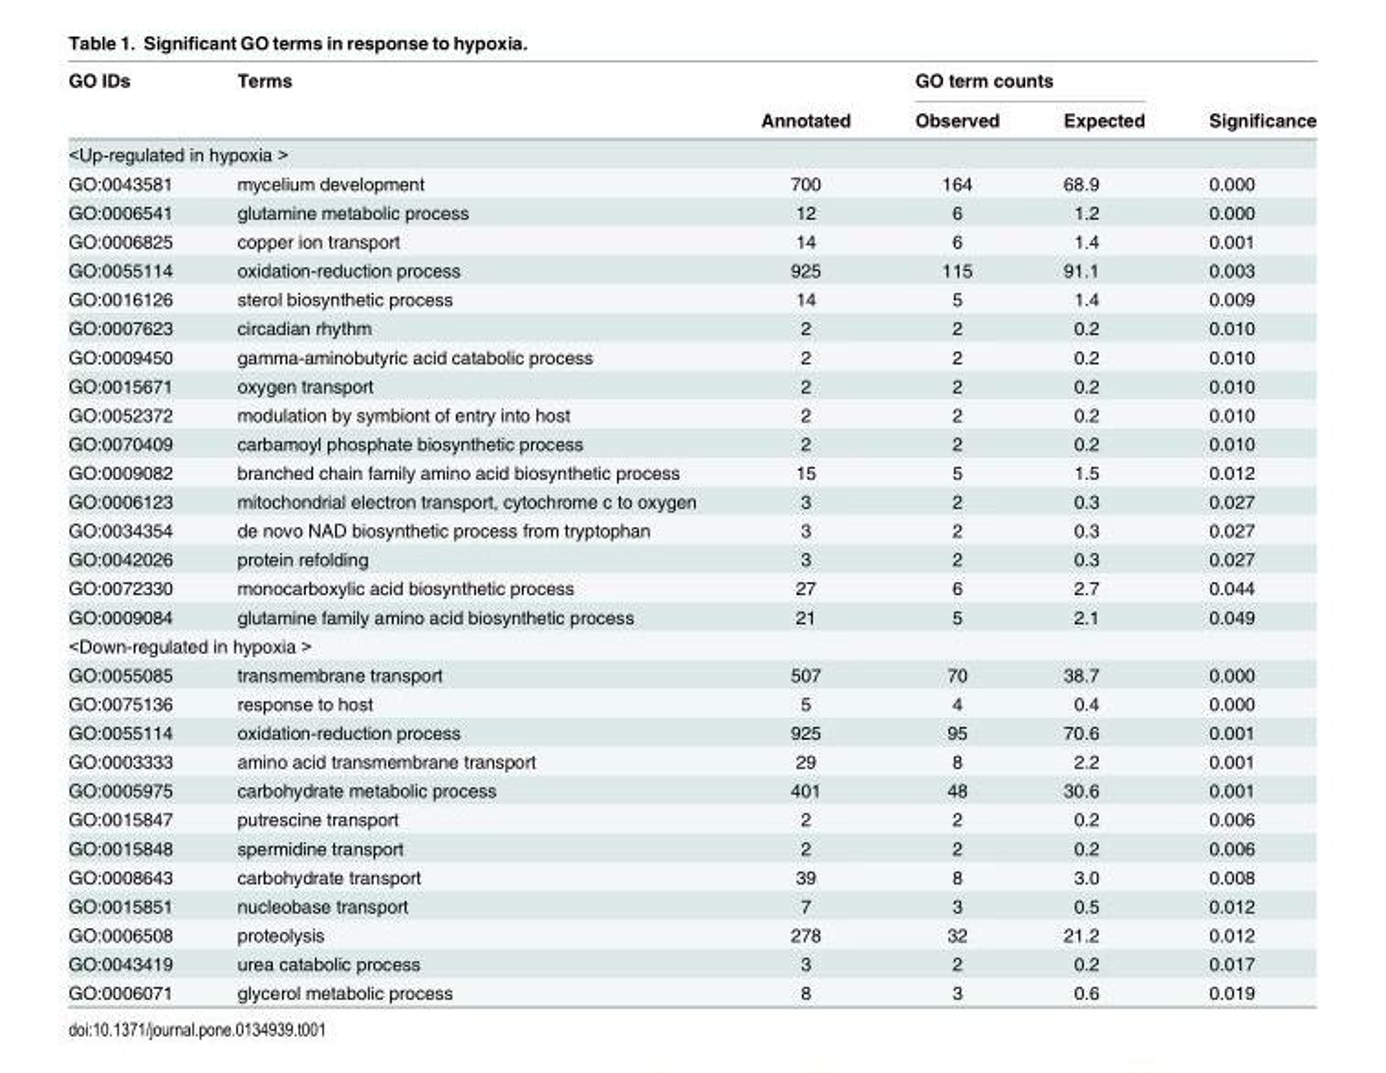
<table><thead><tr><td rowspan="2">GO IDs</td><td rowspan="2">Terms</td><td rowspan="2">Annotated</td><td colspan="2">GO term counts</td><td rowspan="2">Significance</td></tr><tr><td>Observed</td><td>Expected</td></tr></thead><tbody><tr><td colspan="6">&lt;Up-regulated in hypoxia &gt;</td></tr><tr><td>GO:0043581</td><td>mycelium development</td><td>700</td><td>164</td><td>68.9</td><td>0.000</td></tr><tr><td>GO:0006541</td><td>glutamine metabolic process</td><td>12</td><td>6</td><td>1.2</td><td>0.000</td></tr><tr><td>GO:0006825</td><td>copper ion transport</td><td>14</td><td>6</td><td>1.4</td><td>0.001</td></tr><tr><td>GO:0055114</td><td>oxidation-reduction process</td><td>925</td><td>115</td><td>91.1</td><td>0.003</td></tr><tr><td>GO:0016126</td><td>sterol biosynthetic process</td><td>14</td><td>5</td><td>1.4</td><td>0.009</td></tr><tr><td>GO:0007623</td><td>circadian rhythm</td><td>2</td><td>2</td><td>0.2</td><td>0.010</td></tr><tr><td>GO:0009450</td><td>gamma-aminobutyric acid catabolic process</td><td>2</td><td>2</td><td>0.2</td><td>0.010</td></tr><tr><td>GO:0015671</td><td>oxygen transport</td><td>2</td><td>2</td><td>0.2</td><td>0.010</td></tr><tr><td>GO:0052372</td><td>modulation by symbiont of entry into host</td><td>2</td><td>2</td><td>0.2</td><td>0.010</td></tr><tr><td>GO:0070409</td><td>carbamoyl phosphate biosynthetic process</td><td>2</td><td>2</td><td>0.2</td><td>0.010</td></tr><tr><td>GO:0009082</td><td>branched chain family amino acid biosynthetic process</td><td>15</td><td>5</td><td>1.5</td><td>0.012</td></tr><tr><td>GO:0006123</td><td>mitochondrial electron transport, cytochrome c to oxygen</td><td>3</td><td>2</td><td>0.3</td><td>0.027</td></tr><tr><td>GO:0034354</td><td>de novo NAD biosynthetic process from tryptophan</td><td>3</td><td>2</td><td>0.3</td><td>0.027</td></tr><tr><td>GO:0042026</td><td>protein refolding</td><td>3</td><td>2</td><td>0.3</td><td>0.027</td></tr><tr><td>GO:0072330</td><td>monocarboxylic acid biosynthetic process</td><td>27</td><td>6</td><td>2.7</td><td>0.044</td></tr><tr><td>GO:0009084</td><td>glutamine family amino acid biosynthetic process</td><td>21</td><td>5</td><td>2.1</td><td>0.049</td></tr><tr><td colspan="6">&lt;Down-regulated in hypoxia &gt;</td></tr><tr><td>GO:0055085</td><td>transmembrane transport</td><td>507</td><td>70</td><td>38.7</td><td>0.000</td></tr><tr><td>GO:0075136</td><td>response to host</td><td>5</td><td>4</td><td>0.4</td><td>0.000</td></tr><tr><td>GO:0055114</td><td>oxidation-reduction process</td><td>925</td><td>95</td><td>70.6</td><td>0.001</td></tr><tr><td>GO:0003333</td><td>amino acid transmembrane transport</td><td>29</td><td>8</td><td>2.2</td><td>0.001</td></tr><tr><td>GO:0005975</td><td>carbohydrate metabolic process</td><td>401</td><td>48</td><td>30.6</td><td>0.001</td></tr><tr><td>GO:0015847</td><td>putrescine transport</td><td>2</td><td>2</td><td>0.2</td><td>0.006</td></tr><tr><td>GO:0015848</td><td>spermidine transport</td><td>2</td><td>2</td><td>0.2</td><td>0.006</td></tr><tr><td>GO:0008643</td><td>carbohydrate transport</td><td>39</td><td>8</td><td>3.0</td><td>0.008</td></tr><tr><td>GO:0015851</td><td>nucleobase transport</td><td>7</td><td>3</td><td>0.5</td><td>0.012</td></tr><tr><td>GO:0006508</td><td>proteolysis</td><td>278</td><td>32</td><td>21.2</td><td>0.012</td></tr><tr><td>GO:0043419</td><td>urea catabolic process</td><td>3</td><td>2</td><td>0.2</td><td>0.017</td></tr><tr><td>GO:0006071</td><td>glycerol metabolic process</td><td>8</td><td>3</td><td>0.6</td><td>0.019</td></tr></tbody></table>